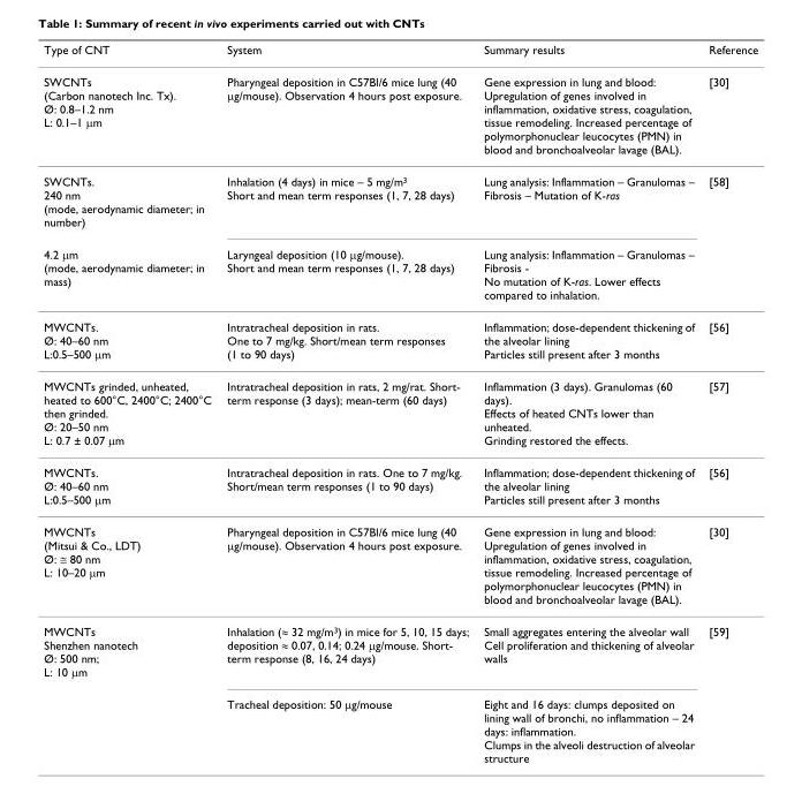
<table><thead><tr><td>Type of CNT</td><td>System</td><td>Summary results</td><td>Reference</td></tr></thead><tbody><tr><td>SWCNTs (Carbon nanotech Inc. Tx). Ø: 0.8–1.2 nm L: 0.1–1 μm</td><td>Pharyngeal deposition in C57Bl/6 mice lung (40 μg/mouse). Observation 4 hours post exposure.</td><td>Gene expression in lung and blood: Upregulation of genes involved in inflammation, oxidative stress, coagulation, tissue remodeling. Increased percentage of polymorphonuclear leucocytes (PMN) in blood and bronchoalveolar lavage (BAL).</td><td>[30]</td></tr><tr><td>SWCNTs. 240 nm (mode, aerodynamic diameter; in number)</td><td>Inhalation (4 days) in mice – 5 mg/m<sup>3</sup> Short and mean term responses (1, 7, 28 days)</td><td>Lung analysis: Inflammation – Granulomas – Fibrosis – Mutation of K-ras</td><td>[58]</td></tr><tr><td>4.2 μm (mode, aerodynamic diameter; in mass)</td><td>Laryngeal deposition (10 μg/mouse). Short and mean term responses (1, 7, 28 days)</td><td>Lung analysis: Inflammation – Granulomas – Fibrosis - No mutation of K-ras. Lower effects compared to inhalation.</td><td></td></tr><tr><td>MWCNTs. Ø: 40–60 nm L:0.5–500 μm</td><td>Intratracheal deposition in rats. One to 7 mg/kg. Short/mean term responses (1 to 90 days)</td><td>Inflammation; dose-dependent thickening of the alveolar lining Particles still present after 3 months</td><td>[56]</td></tr><tr><td>MWCNTs grinded, unheated, heated to 600°C, 2400°C; 2400°C then grinded. Ø: 20–50 nm L: 0.7 ± 0.07 μm</td><td>Intratracheal deposition in rats, 2 mg/rat. Short- term response (3 days); mean-term (60 days)</td><td>Inflammation (3 days). Granulomas (60 days). Effects of heated CNTs lower than unheated. Grinding restored the effects.</td><td>[57]</td></tr><tr><td>MWCNTs. Ø: 40–60 nm L:0.5–500 μm</td><td>Intratracheal deposition in rats. One to 7 mg/kg. Short/mean term responses (1 to 90 days)</td><td>Inflammation; dose-dependent thickening of the alveolar lining Particles still present after 3 months</td><td>[56]</td></tr><tr><td>MWCNTs (Mitsui &amp; Co., LDT) Ø: ≅ 80 nm L: 10–20 μm</td><td>Pharyngeal deposition in C57Bl/6 mice lung (40 μg/mouse). Observation 4 hours post exposure.</td><td>Gene expression in lung and blood: Upregulation of genes involved in inflammation, oxidative stress, coagulation, tissue remodeling. Increased percentage of polymorphonuclear leucocytes (PMN) in blood and bronchoalveolar lavage (BAL).</td><td>[30]</td></tr><tr><td rowspan="2">MWCNTs Shenzhen nanotech Ø: 500 nm; L: 10 μm</td><td>Inhalation (≈ 32 mg/m<sup>3</sup>) in mice for 5, 10, 15 days; deposition ≈ 0.07, 0.14; 0.24 μg/mouse. Short- term response (8, 16, 24 days)</td><td>Small aggregates entering the alveolar wall Cell proliferation and thickening of alveolar walls</td><td>[59]</td></tr><tr><td>Tracheal deposition: 50 μg/mouse</td><td>Eight and 16 days: clumps deposited on lining wall of bronchi, no inflammation – 24 days: inflammation. Clumps in the alveoli destruction of alveolar structure</td><td></td></tr></tbody></table>